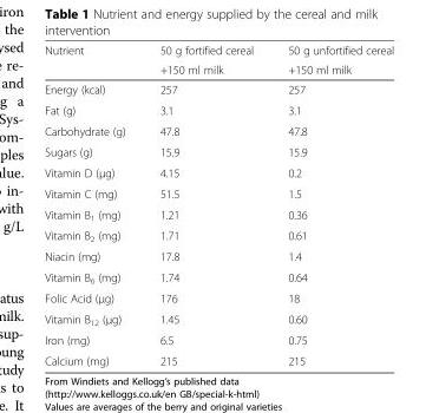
<table><thead><tr><td rowspan="2">Nutrient</td><td rowspan="2">50 g fortified cereal +150 ml milk</td><td rowspan="2">50 g unfortified cereal +150 ml milk</td></tr><tr></tr></thead><tbody><tr><td>Energy (kcal)</td><td>257</td><td>257</td></tr><tr><td>Fat (g)</td><td>3.1</td><td>3.1</td></tr><tr><td>Carbohydrate (g)</td><td>47.8</td><td>47.8</td></tr><tr><td>Sugars (g)</td><td>15.9</td><td>15.9</td></tr><tr><td>Vitamin D (μg)</td><td>4.15</td><td>0.2</td></tr><tr><td>Vitamin C (mg)</td><td>51.5</td><td>1.5</td></tr><tr><td>Vitamin B<sub>1</sub> (mg)</td><td>1.21</td><td>0.36</td></tr><tr><td>Vitamin B<sub>2</sub> (mg)</td><td>1.71</td><td>0.61</td></tr><tr><td>Niacin (mg)</td><td>17.8</td><td>1.4</td></tr><tr><td>Vitamin B<sub>6</sub> (mg)</td><td>1.74</td><td>0.64</td></tr><tr><td>Folic Acid (μg)</td><td>176</td><td>18</td></tr><tr><td>Vitamin B<sub>12</sub> (μg)</td><td>1.45</td><td>0.60</td></tr><tr><td>Iron (mg)</td><td>6.5</td><td>0.75</td></tr><tr><td>Calcium (mg)</td><td>215</td><td>215</td></tr></tbody></table>